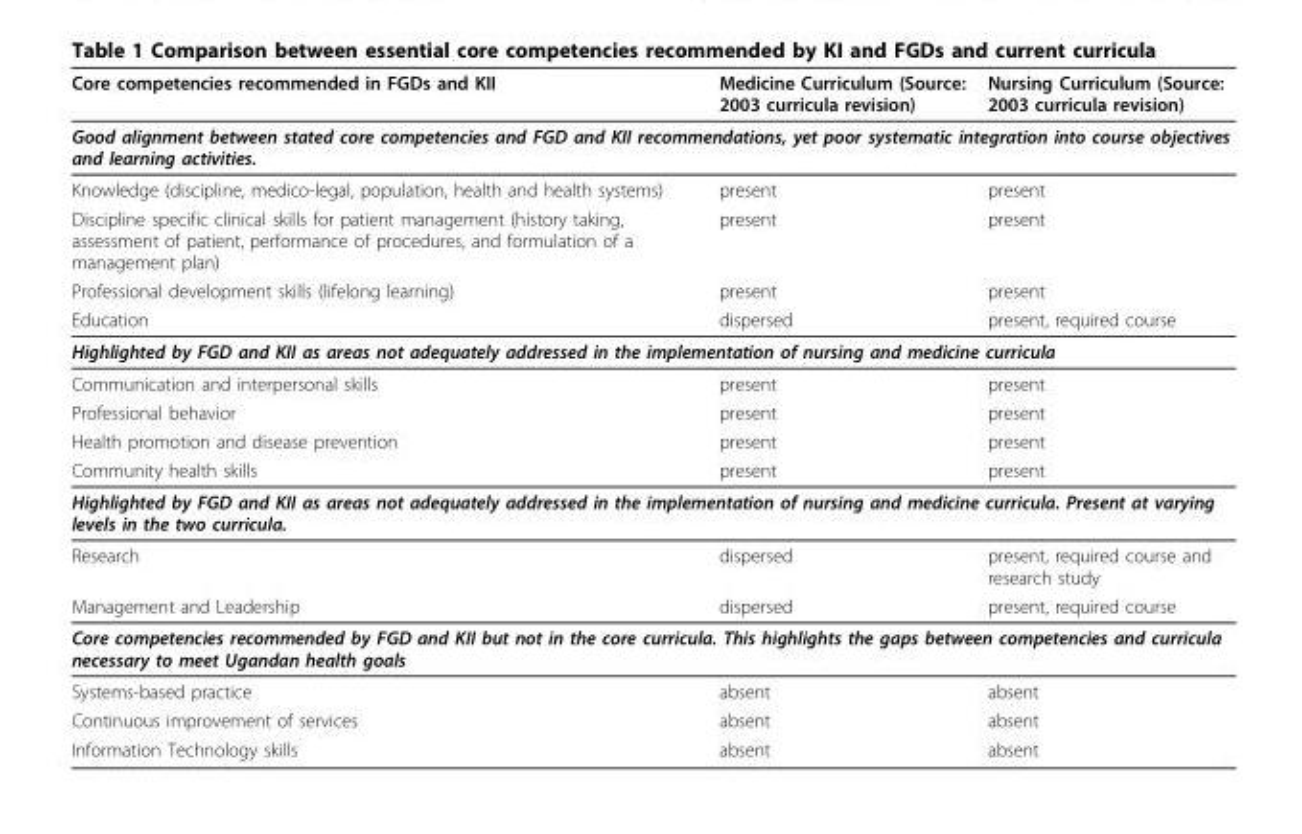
<table><thead><tr><td>Core competencies recommended in FGDs and KII</td><td>Medicine Curriculum (Source: 2003 curricula revision)</td><td>Nursing Curriculum (Source: 2003 curricula revision)</td></tr></thead><tbody><tr><td colspan="3">Good alignment between stated core competencies and FGD and KII recommendations, yet poor systematic integration into course objectives and learning activities.</td></tr><tr><td>Knowledge (discipline, medico-legal, population, health and health systems)</td><td>present</td><td>present</td></tr><tr><td>Discipline specific clinical skills for patient management (history taking, assessment of patient, performance of procedures, and formulation of a management plan)</td><td>present</td><td>present</td></tr><tr><td>Professional development skills (lifelong learning)</td><td>present</td><td>present</td></tr><tr><td>Education</td><td>dispersed</td><td>present, required course</td></tr><tr><td colspan="3">Highlighted by FGD and KII as areas not adequately addressed in the implementation of nursing and medicine curricula</td></tr><tr><td>Communication and interpersonal skills</td><td>present</td><td>present</td></tr><tr><td>Professional behavior</td><td>present</td><td>present</td></tr><tr><td>Health promotion and disease prevention</td><td>present</td><td>present</td></tr><tr><td>Community health skills</td><td>present</td><td>present</td></tr><tr><td colspan="3">Highlighted by FGD and KII as areas not adequately addressed in the implementation of nursing and medicine curricula. Present at varying levels in the two curricula.</td></tr><tr><td>Research</td><td>dispersed</td><td>present, required course and research study</td></tr><tr><td>Management and Leadership</td><td>dispersed</td><td>present, required course</td></tr><tr><td colspan="3">Core competencies recommended by FGD and KII but not in the core curricula. This highlights the gaps between competencies and curricula necessary to meet Ugandan health goals</td></tr><tr><td>Systems-based practice</td><td>absent</td><td>absent</td></tr><tr><td>Continuous improvement of services</td><td>absent</td><td>absent</td></tr><tr><td>Information Technology skills</td><td>absent</td><td>absent</td></tr></tbody></table>